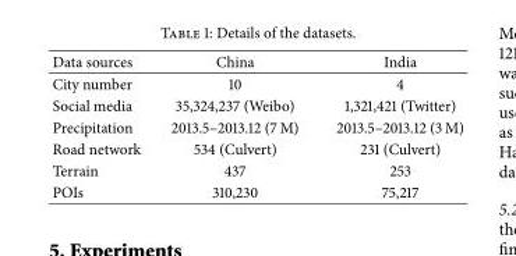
<table><tbody><tr><td>Data sources</td><td>China</td><td>India</td></tr><tr><td>City number</td><td>10</td><td>4</td></tr><tr><td>Social media</td><td>35,324,237 (Weibo)</td><td>1,321,421 (Twitter)</td></tr><tr><td>Precipitation</td><td>2013.5–2013.12 (7 M)</td><td>2013.5–2013.12 (3 M)</td></tr><tr><td>Road network</td><td>534 (Culvert)</td><td>231 (Culvert)</td></tr><tr><td>Terrain</td><td>437</td><td>253</td></tr><tr><td>POIs</td><td>310,230</td><td>75,217</td></tr></tbody></table>